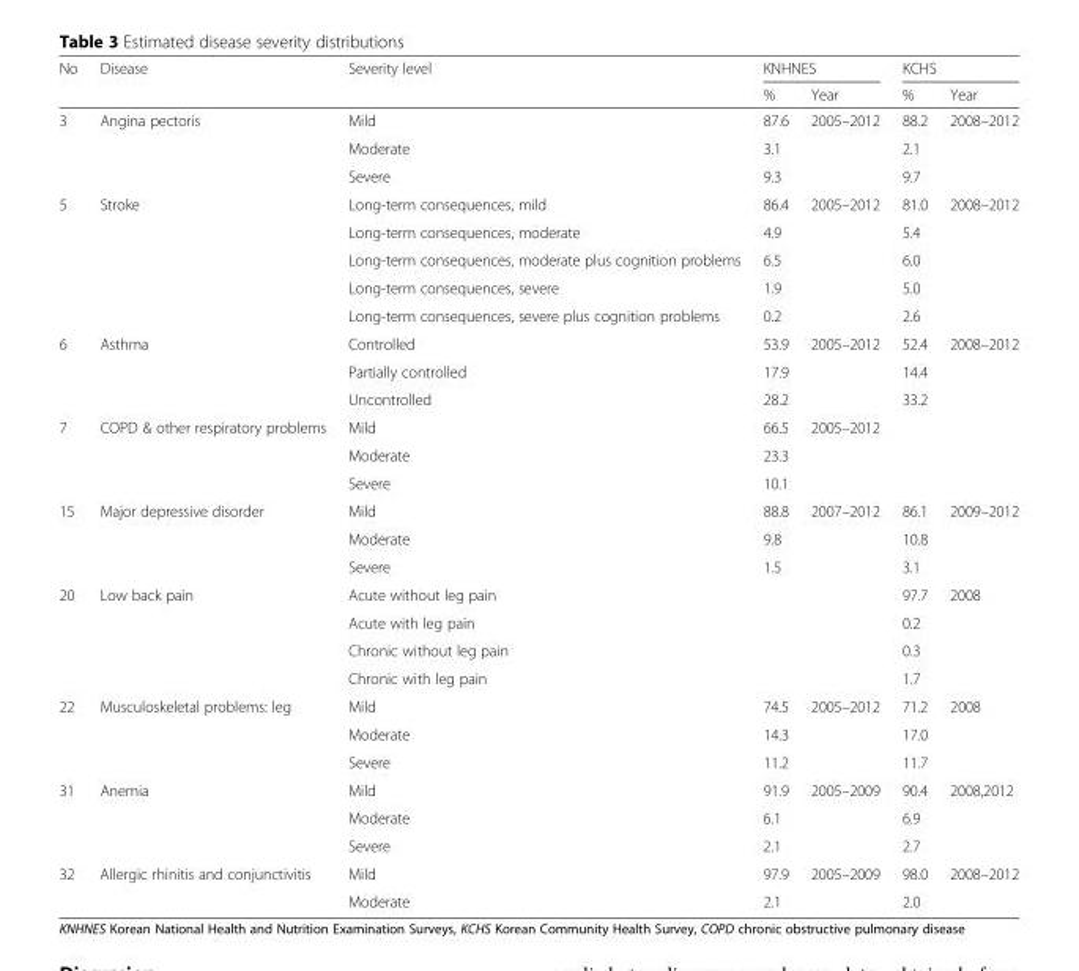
<table><thead><tr><td rowspan="2">No</td><td rowspan="2">Disease</td><td rowspan="2">Severity level</td><td colspan="2">KNHNES</td><td colspan="2">KCHS</td></tr><tr><td>%</td><td>Year</td><td>%</td><td>Year</td></tr></thead><tbody><tr><td rowspan="3">3</td><td rowspan="3">Angina pectoris</td><td>Mild</td><td>87.6</td><td rowspan="3">2005–2012</td><td>88.2</td><td rowspan="3">2008–2012</td></tr><tr><td>Moderate</td><td>3.1</td><td>2.1</td></tr><tr><td>Severe</td><td>9.3</td><td>9.7</td></tr><tr><td rowspan="5">5</td><td rowspan="5">Stroke</td><td>Long-term consequences, mild</td><td>86.4</td><td rowspan="5">2005–2012</td><td>81.0</td><td rowspan="5">2008–2012</td></tr><tr><td>Long-term consequences, moderate</td><td>4.9</td><td>5.4</td></tr><tr><td>Long-term consequences, moderate plus cognition problems</td><td>6.5</td><td>6.0</td></tr><tr><td>Long-term consequences, severe</td><td>1.9</td><td>5.0</td></tr><tr><td>Long-term consequences, severe plus cognition problems</td><td>0.2</td><td>2.6</td></tr><tr><td rowspan="3">6</td><td rowspan="3">Asthma</td><td>Controlled</td><td>53.9</td><td rowspan="3">2005–2012</td><td>52.4</td><td rowspan="3">2008–2012</td></tr><tr><td>Partially controlled</td><td>17.9</td><td>14.4</td></tr><tr><td>Uncontrolled</td><td>28.2</td><td>33.2</td></tr><tr><td rowspan="3">7</td><td rowspan="3">COPD &amp; other respiratory problems</td><td>Mild</td><td>66.5</td><td rowspan="3">2005–2012</td><td></td><td></td></tr><tr><td>Moderate</td><td>23.3</td><td></td><td></td></tr><tr><td>Severe</td><td>10.1</td><td></td><td></td></tr><tr><td rowspan="3">15</td><td rowspan="3">Major depressive disorder</td><td>Mild</td><td>88.8</td><td rowspan="3">2007–2012</td><td>86.1</td><td rowspan="3">2009–2012</td></tr><tr><td>Moderate</td><td>9.8</td><td>10.8</td></tr><tr><td>Severe</td><td>1.5</td><td>3.1</td></tr><tr><td rowspan="4">20</td><td rowspan="4">Low back pain</td><td>Acute without leg pain</td><td></td><td></td><td>97.7</td><td rowspan="4">2008</td></tr><tr><td>Acute with leg pain</td><td></td><td></td><td>0.2</td></tr><tr><td>Chronic without leg pain</td><td></td><td></td><td>0.3</td></tr><tr><td>Chronic with leg pain</td><td></td><td></td><td>1.7</td></tr><tr><td rowspan="3">22</td><td rowspan="3">Musculoskeletal problems: leg</td><td>Mild</td><td>74.5</td><td rowspan="3">2005–2012</td><td>71.2</td><td rowspan="3">2008</td></tr><tr><td>Moderate</td><td>14.3</td><td>17.0</td></tr><tr><td>Severe</td><td>11.2</td><td>11.7</td></tr><tr><td rowspan="3">31</td><td rowspan="3">Anemia</td><td>Mild</td><td>91.9</td><td rowspan="3">2005–2009</td><td>90.4</td><td rowspan="3">2008,2012</td></tr><tr><td>Moderate</td><td>6.1</td><td>6.9</td></tr><tr><td>Severe</td><td>2.1</td><td>2.7</td></tr><tr><td rowspan="2">32</td><td rowspan="2">Allergic rhinitis and conjunctivitis</td><td>Mild</td><td>97.9</td><td rowspan="2">2005–2009</td><td>98.0</td><td rowspan="2">2008–2012</td></tr><tr><td>Moderate</td><td>2.1</td><td>2.0</td></tr></tbody></table>